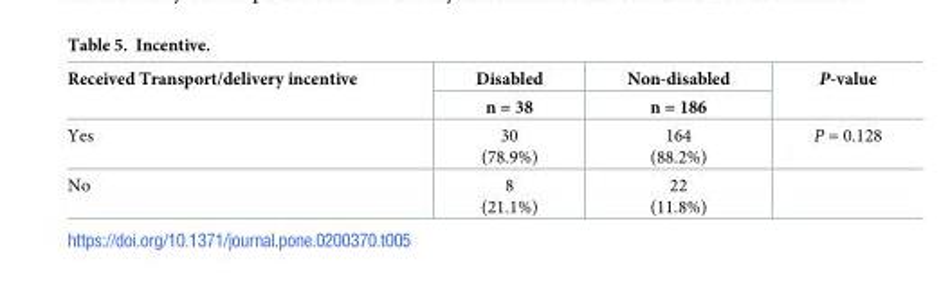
<table><thead><tr><td rowspan="2">Received Transport/delivery incentive</td><td rowspan="2">Disabled n = 38</td><td rowspan="2">Non-disabled n = 186</td><td rowspan="2">P-value</td></tr><tr></tr></thead><tbody><tr><td>Yes</td><td>30 (78.9%)</td><td>164 (88.2%)</td><td>P = 0.128</td></tr><tr><td>No</td><td>8 (21.1%)</td><td>22 (11.8%)</td><td></td></tr></tbody></table>